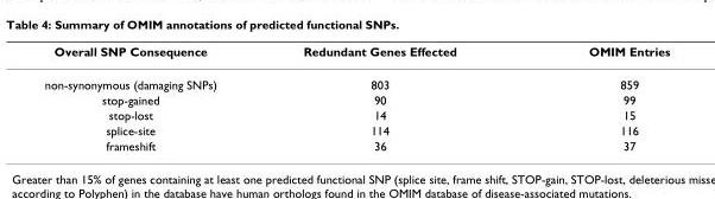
<table><thead><tr><td>Overall SNP Consequence</td><td>Redundant Genes Effected</td><td>OMIM Entries</td></tr></thead><tbody><tr><td>non-synonymous (damaging SNPs)</td><td>803</td><td>859</td></tr><tr><td>stop-gained</td><td>90</td><td>99</td></tr><tr><td>stop-lost</td><td>14</td><td>15</td></tr><tr><td>splice-site</td><td>114</td><td>116</td></tr><tr><td>frameshift</td><td>36</td><td>37</td></tr></tbody></table>